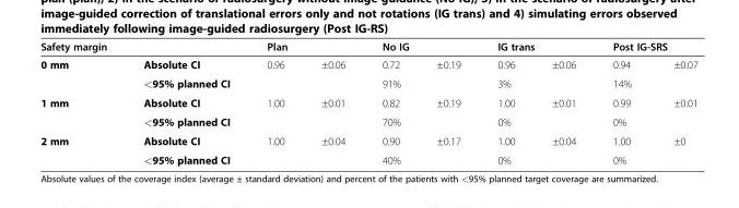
<table><thead><tr><td rowspan="2">Safety margin 0 mm</td><td rowspan="2">Absolute CI</td><td colspan="2">Plan</td><td colspan="2">No IG</td><td colspan="2">IG trans</td><td colspan="2">Post IG-SRS</td></tr><tr><td>0.96</td><td>±0.06</td><td>0.72</td><td>±0.19</td><td>0.96</td><td>±0.06</td><td>0.94</td><td>±0.07</td></tr></thead><tbody><tr><td></td><td>&lt;95% planned CI</td><td colspan="2"></td><td colspan="2">91%</td><td colspan="2">3%</td><td colspan="2">14%</td></tr><tr><td rowspan="2">1 mm</td><td>Absolute CI</td><td>1.00</td><td>±0.01</td><td>0.82</td><td>±0.19</td><td>1.00</td><td>±0.01</td><td>0.99</td><td>±0.01</td></tr><tr><td>&lt;95% planned CI</td><td colspan="2"></td><td colspan="2">70%</td><td colspan="2">0%</td><td colspan="2">0%</td></tr><tr><td rowspan="2">2 mm</td><td>Absolute CI</td><td>1.00</td><td>±0.04</td><td>0.90</td><td>±0.17</td><td>1.00</td><td>±0.04</td><td>1.00</td><td>±0</td></tr><tr><td>&lt;95% planned CI</td><td colspan="2"></td><td colspan="2">40%</td><td colspan="2">0%</td><td colspan="2">0%</td></tr></tbody></table>